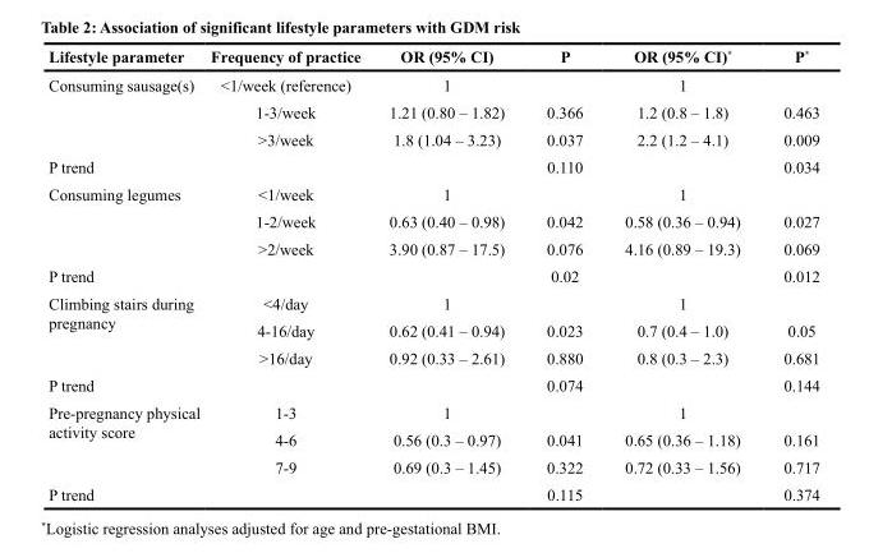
<table><thead><tr><td>Lifestyle parameter</td><td>Frequency of practice</td><td>OR (95% CI)</td><td>P</td><td>OR (95% CI)*</td><td>P*</td></tr></thead><tbody><tr><td rowspan="3">Consuming sausage(s)</td><td>&lt;1/week (reference)</td><td>1</td><td></td><td>1</td><td></td></tr><tr><td>1-3/week</td><td>1.21 (0.80 – 1.82)</td><td>0.366</td><td>1.2 (0.8 – 1.8)</td><td>0.463</td></tr><tr><td>&gt;3/week</td><td>1.8 (1.04 – 3.23)</td><td>0.037</td><td>2.2 (1.2 – 4.1)</td><td>0.009</td></tr><tr><td>P trend</td><td></td><td></td><td>0.110</td><td></td><td>0.034</td></tr><tr><td rowspan="3">Consuming legumes</td><td>&lt;1/week</td><td>1</td><td></td><td>1</td><td></td></tr><tr><td>1-2/week</td><td>0.63 (0.40 – 0.98)</td><td>0.042</td><td>0.58 (0.36 – 0.94)</td><td>0.027</td></tr><tr><td>&gt;2/week</td><td>3.90 (0.87 – 17.5)</td><td>0.076</td><td>4.16 (0.89 – 19.3)</td><td>0.069</td></tr><tr><td>P trend</td><td></td><td></td><td>0.02</td><td></td><td>0.012</td></tr><tr><td rowspan="3">Climbing stairs during pregnancy</td><td>&lt;4/day</td><td>1</td><td></td><td>1</td><td></td></tr><tr><td>4-16/day</td><td>0.62 (0.41 – 0.94)</td><td>0.023</td><td>0.7 (0.4 – 1.0)</td><td>0.05</td></tr><tr><td>&gt;16/day</td><td>0.92 (0.33 – 2.61)</td><td>0.880</td><td>0.8 (0.3 – 2.3)</td><td>0.681</td></tr><tr><td>P trend</td><td></td><td></td><td>0.074</td><td></td><td>0.144</td></tr><tr><td rowspan="3">Pre-pregnancy physical activity score</td><td>1-3</td><td>1</td><td></td><td>1</td><td></td></tr><tr><td>4-6</td><td>0.56 (0.3 – 0.97)</td><td>0.041</td><td>0.65 (0.36 – 1.18)</td><td>0.161</td></tr><tr><td>7-9</td><td>0.69 (0.3 – 1.45)</td><td>0.322</td><td>0.72 (0.33 – 1.56)</td><td>0.717</td></tr><tr><td>P trend</td><td></td><td></td><td>0.115</td><td></td><td>0.374</td></tr></tbody></table>